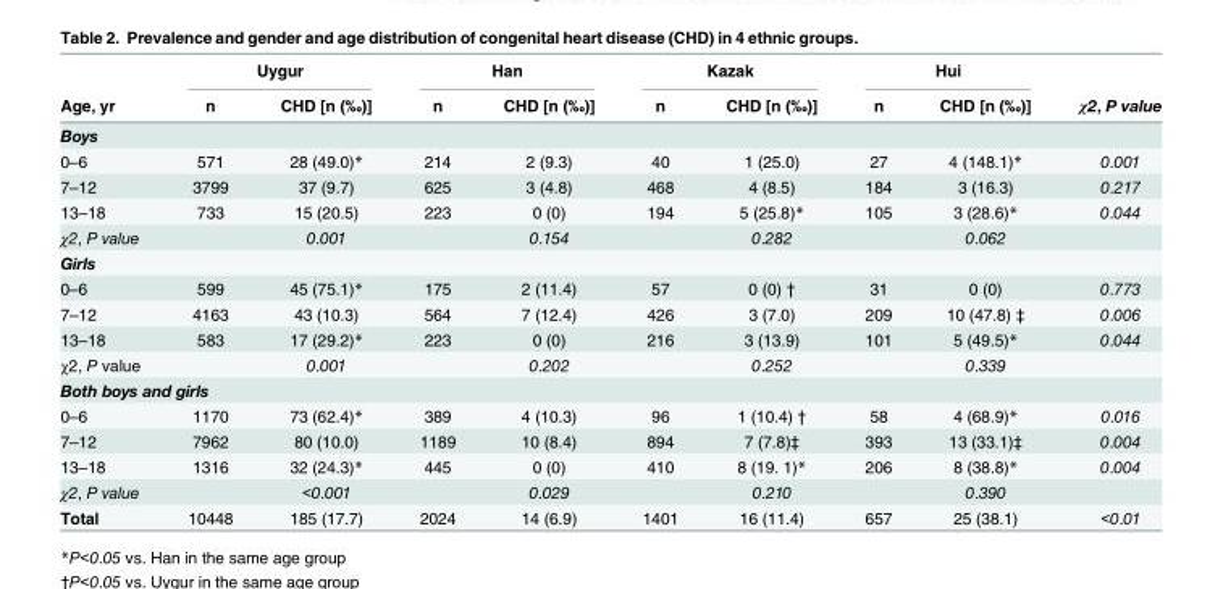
<table><thead><tr><td rowspan="2">Age, yr</td><td colspan="2">Uygur</td><td colspan="2">Han</td><td colspan="2">Kazak</td><td colspan="2">Hui</td><td rowspan="2">χ2, P value</td></tr><tr><td>n</td><td>CHD [n (‰)]</td><td>n</td><td>CHD [n (‰)]</td><td>n</td><td>CHD [n (‰)]</td><td>n</td><td>CHD [n (‰)]</td></tr></thead><tbody><tr><td colspan="10">Boys</td></tr><tr><td>0–6</td><td>571</td><td>28 (49.0)*</td><td>214</td><td>2 (9.3)</td><td>40</td><td>1 (25.0)</td><td>27</td><td>4 (148.1)*</td><td>0.001</td></tr><tr><td>7–12</td><td>3799</td><td>37 (9.7)</td><td>625</td><td>3 (4.8)</td><td>468</td><td>4 (8.5)</td><td>184</td><td>3 (16.3)</td><td>0.217</td></tr><tr><td>13–18</td><td>733</td><td>15 (20.5)</td><td>223</td><td>0 (0)</td><td>194</td><td>5 (25.8)*</td><td>105</td><td>3 (28.6)*</td><td>0.044</td></tr><tr><td>χ2, P value</td><td></td><td>0.001</td><td></td><td>0.154</td><td></td><td>0.282</td><td></td><td>0.062</td><td></td></tr><tr><td colspan="10">Girls</td></tr><tr><td>0–6</td><td>599</td><td>45 (75.1)*</td><td>175</td><td>2 (11.4)</td><td>57</td><td>0 (0) †</td><td>31</td><td>0 (0)</td><td>0.773</td></tr><tr><td>7–12</td><td>4163</td><td>43 (10.3)</td><td>564</td><td>7 (12.4)</td><td>426</td><td>3 (7.0)</td><td>209</td><td>10 (47.8) ‡</td><td>0.006</td></tr><tr><td>13–18</td><td>583</td><td>17 (29.2)*</td><td>223</td><td>0 (0)</td><td>216</td><td>3 (13.9)</td><td>101</td><td>5 (49.5)*</td><td>0.044</td></tr><tr><td>χ2, P value</td><td></td><td>0.001</td><td></td><td>0.202</td><td></td><td>0.252</td><td></td><td>0.339</td><td></td></tr><tr><td colspan="10">Both boys and girls</td></tr><tr><td>0–6</td><td>1170</td><td>73 (62.4)*</td><td>389</td><td>4 (10.3)</td><td>96</td><td>1 (10.4) †</td><td>58</td><td>4 (68.9)*</td><td>0.016</td></tr><tr><td>7–12</td><td>7962</td><td>80 (10.0)</td><td>1189</td><td>10 (8.4)</td><td>894</td><td>7 (7.8)‡</td><td>393</td><td>13 (33.1)‡</td><td>0.004</td></tr><tr><td>13–18</td><td>1316</td><td>32 (24.3)*</td><td>445</td><td>0 (0)</td><td>410</td><td>8 (19. 1)*</td><td>206</td><td>8 (38.8)*</td><td>0.004</td></tr><tr><td>χ2, P value</td><td></td><td>&lt;0.001</td><td></td><td>0.029</td><td></td><td>0.210</td><td></td><td>0.390</td><td></td></tr><tr><td>Total</td><td>10448</td><td>185 (17.7)</td><td>2024</td><td>14 (6.9)</td><td>1401</td><td>16 (11.4)</td><td>657</td><td>25 (38.1)</td><td>&lt;0.01</td></tr></tbody></table>